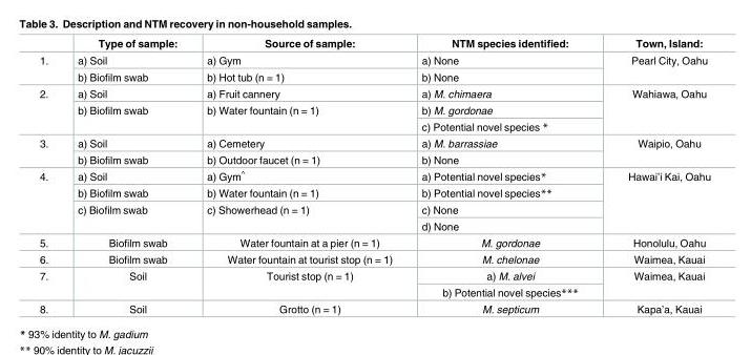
<table><thead><tr><td></td><td>Type of sample:</td><td>Source of sample:</td><td>NTM species identified:</td><td>Town, Island:</td></tr></thead><tbody><tr><td rowspan="2">1.</td><td>a) Soil</td><td>a) Gym</td><td>a) None</td><td rowspan="2">Pearl City, Oahu</td></tr><tr><td>b) Biofilm swab</td><td>b) Hot tub (n = 1)</td><td>b) None</td></tr><tr><td rowspan="3">2.</td><td>a) Soil</td><td>a) Fruit cannery</td><td>a) M. chimaera</td><td rowspan="3">Wahiawa, Oahu</td></tr><tr><td rowspan="2">b) Biofilm swab</td><td rowspan="2">b) Water fountain (n = 1)</td><td>b) M. gordonae</td></tr><tr><td>c) Potential novel species *</td></tr><tr><td rowspan="2">3.</td><td>a) Soil</td><td>a) Cemetery</td><td>a) M. barrassiae</td><td rowspan="2">Waipio, Oahu</td></tr><tr><td>b) Biofilm swab</td><td>b) Outdoor faucet (n = 1)</td><td>b) None</td></tr><tr><td rowspan="4">4.</td><td>a) Soil</td><td>a) Gym<sup>^</sup></td><td>a) Potential novel species*</td><td rowspan="4">Hawai’i Kai, Oahu</td></tr><tr><td>b) Biofilm swab</td><td>b) Water fountain (n = 1)</td><td>b) Potential novel species**</td></tr><tr><td rowspan="2">c) Biofilm swab</td><td rowspan="2">c) Showerhead (n = 1)</td><td>c) None</td></tr><tr><td>d) None</td></tr><tr><td>5.</td><td>Biofilm swab</td><td>Water fountain at a pier (n = 1)</td><td>M. gordonae</td><td>Honolulu, Oahu</td></tr><tr><td>6.</td><td>Biofilm swab</td><td>Water fountain at tourist stop (n = 1)</td><td>M. chelonae</td><td>Waimea, Kauai</td></tr><tr><td rowspan="2">7.</td><td rowspan="2">Soil</td><td rowspan="2">Tourist stop (n = 1)</td><td>a) M. alvei</td><td rowspan="2">Waimea, Kauai</td></tr><tr><td>b) Potential novel species***</td></tr><tr><td>8.</td><td>Soil</td><td>Grotto (n = 1)</td><td>M. septicum</td><td>Kapa’a, Kauai</td></tr></tbody></table>